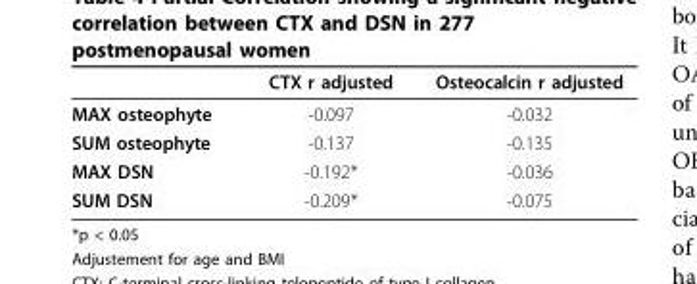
<table><thead><tr><td></td><td>CTX r adjusted</td><td>Osteocalcin r adjusted</td></tr></thead><tbody><tr><td>MAX osteophyte</td><td>-0.097</td><td>-0.032</td></tr><tr><td>SUM osteophyte</td><td>-0.137</td><td>-0.135</td></tr><tr><td>MAX DSN</td><td>-0.192*</td><td>-0.036</td></tr><tr><td>SUM DSN</td><td>-0.209*</td><td>-0.075</td></tr></tbody></table>